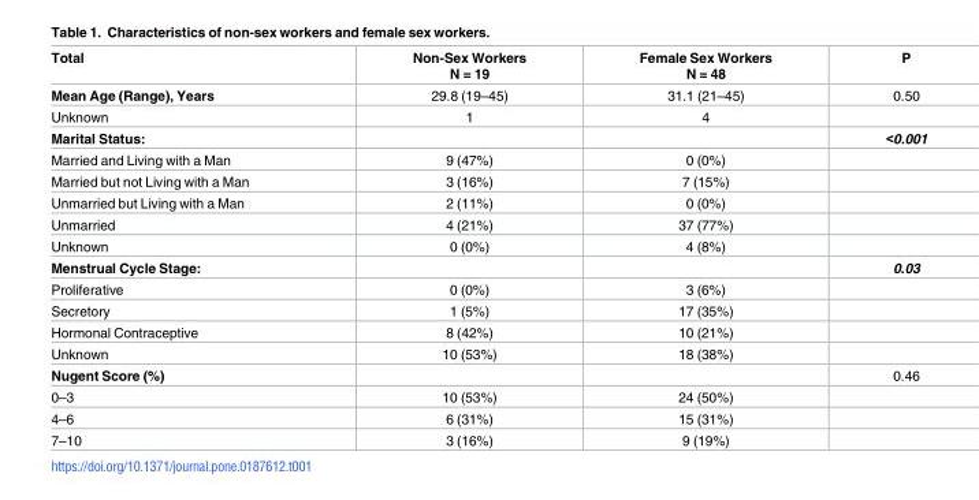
<table><thead><tr><td>Total</td><td>Non-Sex Workers N = 19</td><td>Female Sex Workers N = 48</td><td>P</td></tr></thead><tbody><tr><td>Mean Age (Range), Years</td><td>29.8 (19–45)</td><td>31.1 (21–45)</td><td>0.50</td></tr><tr><td>Unknown</td><td>1</td><td>4</td><td></td></tr><tr><td>Marital Status:</td><td></td><td></td><td>&lt;0.001</td></tr><tr><td>Married and Living with a Man</td><td>9 (47%)</td><td>0 (0%)</td><td></td></tr><tr><td>Married but not Living with a Man</td><td>3 (16%)</td><td>7 (15%)</td><td></td></tr><tr><td>Unmarried but Living with a Man</td><td>2 (11%)</td><td>0 (0%)</td><td></td></tr><tr><td>Unmarried</td><td>4 (21%)</td><td>37 (77%)</td><td></td></tr><tr><td>Unknown</td><td>0 (0%)</td><td>4 (8%)</td><td></td></tr><tr><td>Menstrual Cycle Stage:</td><td></td><td></td><td>0.03</td></tr><tr><td>Proliferative</td><td>0 (0%)</td><td>3 (6%)</td><td></td></tr><tr><td>Secretory</td><td>1 (5%)</td><td>17 (35%)</td><td></td></tr><tr><td>Hormonal Contraceptive</td><td>8 (42%)</td><td>10 (21%)</td><td></td></tr><tr><td>Unknown</td><td>10 (53%)</td><td>18 (38%)</td><td></td></tr><tr><td>Nugent Score (%)</td><td></td><td></td><td>0.46</td></tr><tr><td>0–3</td><td>10 (53%)</td><td>24 (50%)</td><td></td></tr><tr><td>4–6</td><td>6 (31%)</td><td>15 (31%)</td><td></td></tr><tr><td>7–10</td><td>3 (16%)</td><td>9 (19%)</td><td></td></tr></tbody></table>